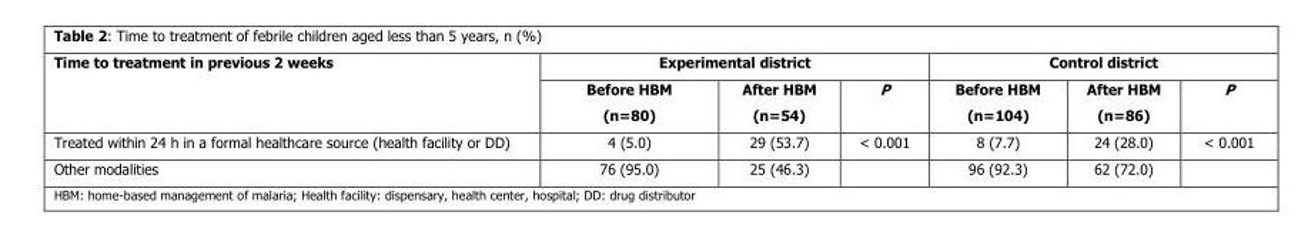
<table><thead><tr><td rowspan="2">Time to treatment in previous 2 weeks</td><td colspan="3">Experimental district</td><td colspan="3">Control district</td></tr><tr><td>Before HBM (n=80)</td><td>After HBM (n=54)</td><td>P</td><td>Before HBM (n=104)</td><td>After HBM (n=86)</td><td>P</td></tr></thead><tbody><tr><td>Treated within 24 h in a formal healthcare source (health facility or DD)</td><td>4 (5.0)</td><td>29 (53.7)</td><td>&lt; 0.001</td><td>8 (7.7)</td><td>24 (28.0)</td><td>&lt; 0.001</td></tr><tr><td>Other modalities</td><td>76 (95.0)</td><td>25 (46.3)</td><td></td><td>96 (92.3)</td><td>62 (72.0)</td><td></td></tr></tbody></table>